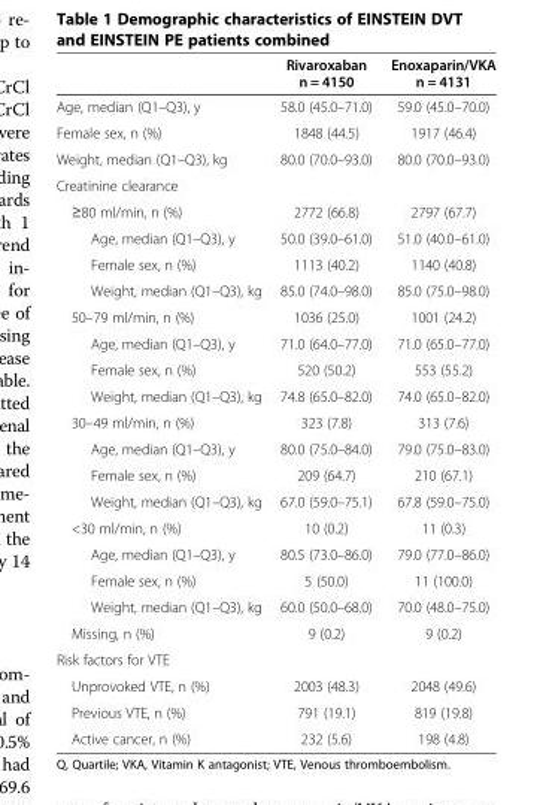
<table><thead><tr><td></td><td>Rivaroxaban n = 4150</td><td>Enoxaparin/VKA n = 4131</td></tr></thead><tbody><tr><td>Age, median (Q1–Q3), y</td><td>58.0 (45.0–71.0)</td><td>59.0 (45.0–70.0)</td></tr><tr><td>Female sex, n (%)</td><td>1848 (44.5)</td><td>1917 (46.4)</td></tr><tr><td>Weight, median (Q1–Q3), kg</td><td>80.0 (70.0–93.0)</td><td>80.0 (70.0–93.0)</td></tr><tr><td colspan="3">Creatinine clearance</td></tr><tr><td>≥80 ml/min, n (%)</td><td>2772 (66.8)</td><td>2797 (67.7)</td></tr><tr><td>Age, median (Q1–Q3), y</td><td>50.0 (39.0–61.0)</td><td>51.0 (40.0–61.0)</td></tr><tr><td>Female sex, n (%)</td><td>1113 (40.2)</td><td>1140 (40.8)</td></tr><tr><td>Weight, median (Q1–Q3), kg</td><td>85.0 (74.0–98.0)</td><td>85.0 (75.0–98.0)</td></tr><tr><td>50–79 ml/min, n (%)</td><td>1036 (25.0)</td><td>1001 (24.2)</td></tr><tr><td>Age, median (Q1–Q3), y</td><td>71.0 (64.0–77.0)</td><td>71.0 (65.0–77.0)</td></tr><tr><td>Female sex, n (%)</td><td>520 (50.2)</td><td>553 (55.2)</td></tr><tr><td>Weight, median (Q1–Q3), kg</td><td>74.8 (65.0–82.0)</td><td>74.0 (65.0–82.0)</td></tr><tr><td>30–49 ml/min, n (%)</td><td>323 (7.8)</td><td>313 (7.6)</td></tr><tr><td>Age, median (Q1–Q3), y</td><td>80.0 (75.0–84.0)</td><td>79.0 (75.0–83.0)</td></tr><tr><td>Female sex, n (%)</td><td>209 (64.7)</td><td>210 (67.1)</td></tr><tr><td>Weight, median (Q1–Q3), kg</td><td>67.0 (59.0–75.1)</td><td>67.8 (59.0–75.0)</td></tr><tr><td>&lt;30 ml/min, n (%)</td><td>10 (0.2)</td><td>11 (0.3)</td></tr><tr><td>Age, median (Q1–Q3), y</td><td>80.5 (73.0–86.0)</td><td>79.0 (77.0–86.0)</td></tr><tr><td>Female sex, n (%)</td><td>5 (50.0)</td><td>11 (100.0)</td></tr><tr><td>Weight, median (Q1–Q3), kg</td><td>60.0 (50.0–68.0)</td><td>70.0 (48.0–75.0)</td></tr><tr><td>Missing, n (%)</td><td>9 (0.2)</td><td>9 (0.2)</td></tr><tr><td colspan="3">Risk factors for VTE</td></tr><tr><td>Unprovoked VTE, n (%)</td><td>2003 (48.3)</td><td>2048 (49.6)</td></tr><tr><td>Previous VTE, n (%)</td><td>791 (19.1)</td><td>819 (19.8)</td></tr><tr><td>Active cancer, n (%)</td><td>232 (5.6)</td><td>198 (4.8)</td></tr></tbody></table>